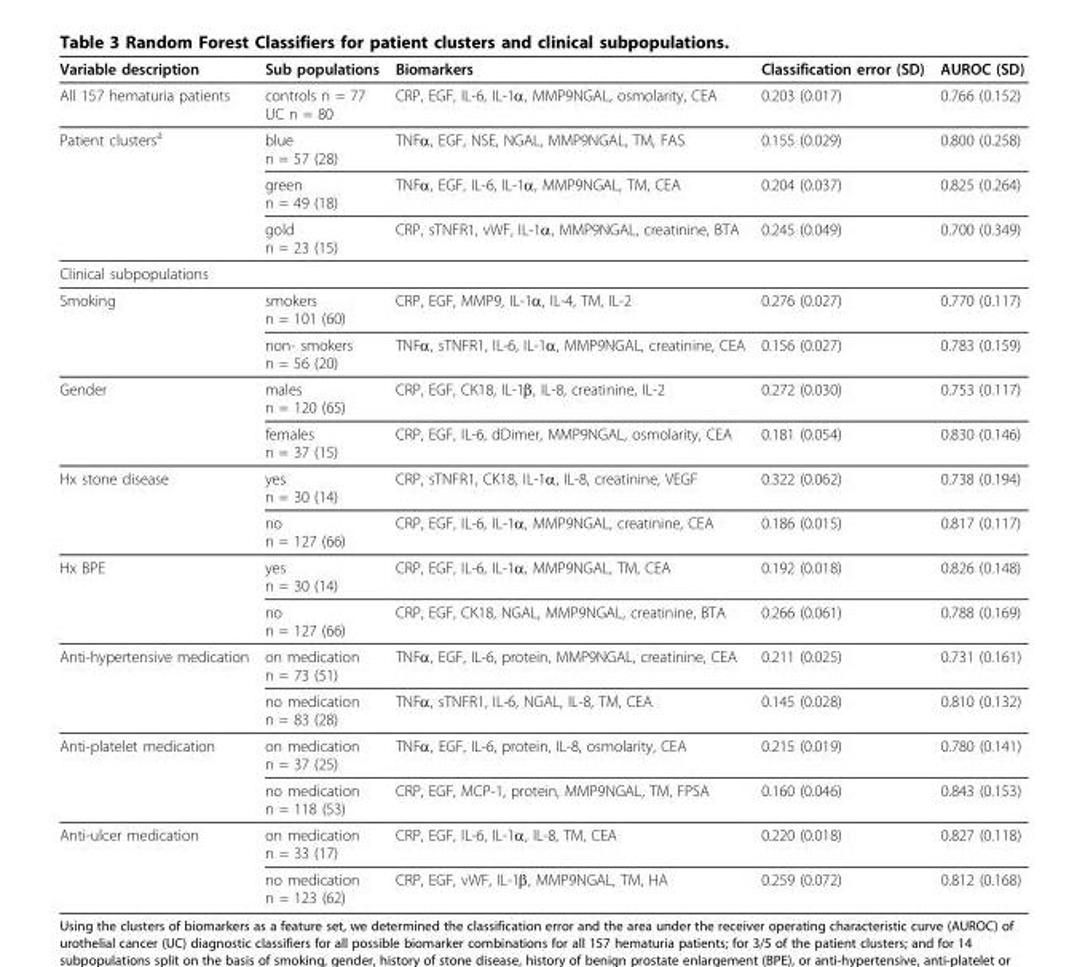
<table><thead><tr><td>Variable description</td><td>Sub populations</td><td>Biomarkers</td><td>Classification error (SD)</td><td>AUROC (SD)</td></tr></thead><tbody><tr><td>All 157 hematuria patients</td><td>controls n = 77 UC n = 80</td><td>CRP, EGF, IL-6, IL-1α, MMP9NGAL, osmolarity, CEA</td><td>0.203 (0.017)</td><td>0.766 (0.152)</td></tr><tr><td rowspan="3">Patient clusters<sup>a</sup></td><td>blue n = 57 (28)</td><td>TNFα, EGF, NSE, NGAL, MMP9NGAL, TM, FAS</td><td>0.155 (0.029)</td><td>0.800 (0.258)</td></tr><tr><td>green n = 49 (18)</td><td>TNFα, EGF, IL-6, IL-1α, MMP9NGAL, TM, CEA</td><td>0.204 (0.037)</td><td>0.825 (0.264)</td></tr><tr><td>gold n = 23 (15)</td><td>CRP, sTNFR1, vWF, IL-1α, MMP9NGAL, creatinine, BTA</td><td>0.245 (0.049)</td><td>0.700 (0.349)</td></tr><tr><td colspan="5">Clinical subpopulations</td></tr><tr><td rowspan="2">Smoking</td><td>smokers n = 101 (60)</td><td>CRP, EGF, MMP9, IL-1α, IL-4, TM, IL-2</td><td>0.276 (0.027)</td><td>0.770 (0.117)</td></tr><tr><td>non- smokers n = 56 (20)</td><td>TNFα, sTNFR1, IL-6, IL-1α, MMP9NGAL, creatinine, CEA</td><td>0.156 (0.027)</td><td>0.783 (0.159)</td></tr><tr><td rowspan="2">Gender</td><td>males n = 120 (65)</td><td>CRP, EGF, CK18, IL-1β, IL-8, creatinine, IL-2</td><td>0.272 (0.030)</td><td>0.753 (0.117)</td></tr><tr><td>females n = 37 (15)</td><td>CRP, EGF, IL-6, dDimer, MMP9NGAL, osmolarity, CEA</td><td>0.181 (0.054)</td><td>0.830 (0.146)</td></tr><tr><td rowspan="2">Hx stone disease</td><td>yes n = 30 (14)</td><td>CRP, sTNFR1, CK18, IL-1α, IL-8, creatinine, VEGF</td><td>0.322 (0.062)</td><td>0.738 (0.194)</td></tr><tr><td>no n = 127 (66)</td><td>CRP, EGF, IL-6, IL-1α, MMP9NGAL, creatinine, CEA</td><td>0.186 (0.015)</td><td>0.817 (0.117)</td></tr><tr><td rowspan="2">Hx BPE</td><td>yes n = 30 (14)</td><td>CRP, EGF, IL-6, IL-1α, MMP9NGAL, TM, CEA</td><td>0.192 (0.018)</td><td>0.826 (0.148)</td></tr><tr><td>no n = 127 (66)</td><td>CRP, EGF, CK18, NGAL, MMP9NGAL, creatinine, BTA</td><td>0.266 (0.061)</td><td>0.788 (0.169)</td></tr><tr><td rowspan="2">Anti-hypertensive medication</td><td>on medication n = 73 (51)</td><td>TNFα, EGF, IL-6, protein, MMP9NGAL, creatinine, CEA</td><td>0.211 (0.025)</td><td>0.731 (0.161)</td></tr><tr><td>no medication n = 83 (28)</td><td>TNFα, sTNFR1, IL-6, NGAL, IL-8, TM, CEA</td><td>0.145 (0.028)</td><td>0.810 (0.132)</td></tr><tr><td rowspan="2">Anti-platelet medication</td><td>on medication n = 37 (25)</td><td>TNFα, EGF, IL-6, protein, IL-8, osmolarity, CEA</td><td>0.215 (0.019)</td><td>0.780 (0.141)</td></tr><tr><td>no medication n = 118 (53)</td><td>CRP, EGF, MCP-1, protein, MMP9NGAL, TM, FPSA</td><td>0.160 (0.046)</td><td>0.843 (0.153)</td></tr><tr><td rowspan="2">Anti-ulcer medication</td><td>on medication n = 33 (17)</td><td>CRP, EGF, IL-6, IL-1α, IL-8, TM, CEA</td><td>0.220 (0.018)</td><td>0.827 (0.118)</td></tr><tr><td>no medication n = 123 (62)</td><td>CRP, EGF, vWF, IL-1β, MMP9NGAL, TM, HA</td><td>0.259 (0.072)</td><td>0.812 (0.168)</td></tr></tbody></table>